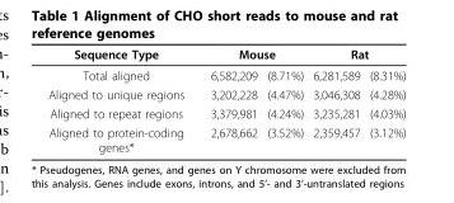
<table><thead><tr><td rowspan="2">Sequence Type Total aligned</td><td colspan="2">Mouse</td><td colspan="2">Rat</td></tr><tr><td>6,582,209</td><td>(8.71%)</td><td>6,281,589</td><td>(8.31%)</td></tr></thead><tbody><tr><td>Aligned to unique regions</td><td>3,202,228</td><td>(4.47%)</td><td>3,046,308</td><td>(4.28%)</td></tr><tr><td>Aligned to repeat regions</td><td>3,379,981</td><td>(4.24%)</td><td>3,235,281</td><td>(4.03%)</td></tr><tr><td>Aligned to protein-coding genes*</td><td>2,678,662</td><td>(3.52%)</td><td>2,359,457</td><td>(3.12%)</td></tr></tbody></table>